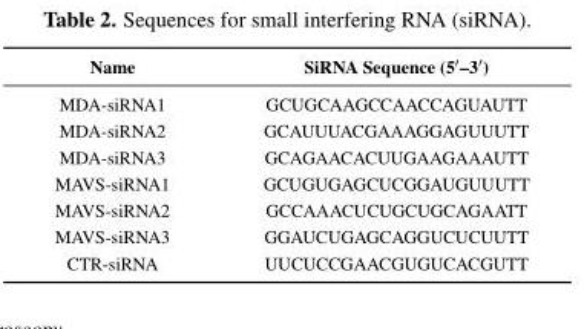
<table><thead><tr><td>Name</td><td>SiRNA Sequence (5′–3′)</td></tr></thead><tbody><tr><td>MDA-siRNA1</td><td>GCUGCAAGCCAACCAGUAUTT</td></tr><tr><td>MDA-siRNA2</td><td>GCAUUUACGAAAGGAGUUUTT</td></tr><tr><td>MDA-siRNA3</td><td>GCAGAACACUUGAAGAAAUTT</td></tr><tr><td>MAVS-siRNA1</td><td>GCUGUGAGCUCGGAUGUUUTT</td></tr><tr><td>MAVS-siRNA2</td><td>GCCAAACUCUGCUGCAGAATT</td></tr><tr><td>MAVS-siRNA3</td><td>GGAUCUGAGCAGGUCUCUUTT</td></tr><tr><td>CTR-siRNA</td><td>UUCUCCGAACGUGUCACGUTT</td></tr></tbody></table>